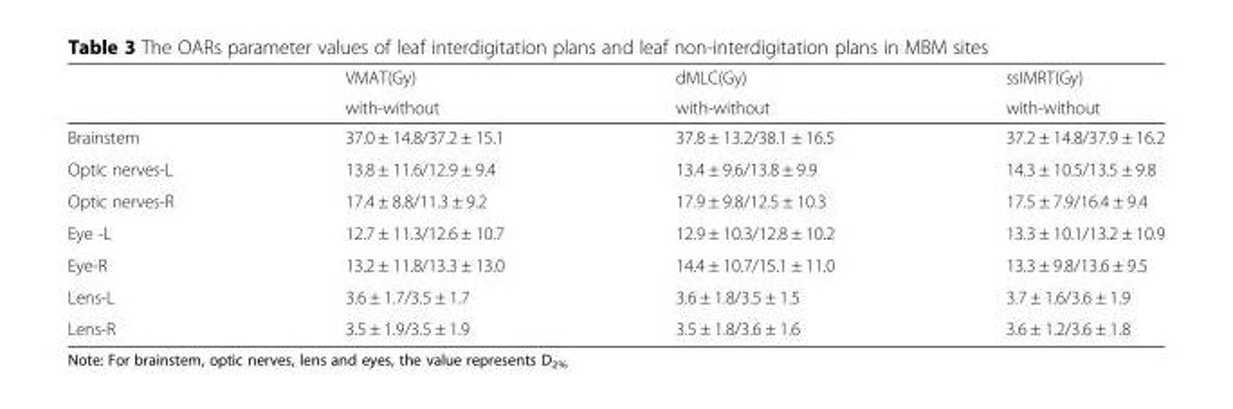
<table><thead><tr><td rowspan="2"></td><td rowspan="2">VMAT(Gy) with-without</td><td rowspan="2">dMLC(Gy) with-without</td><td rowspan="2">ssIMRT(Gy) with-without</td></tr><tr></tr></thead><tbody><tr><td>Brainstem</td><td>37.0 ± 14.8/37.2 ± 15.1</td><td>37.8 ± 13.2/38.1 ± 16.5</td><td>37.2 ± 14.8/37.9 ± 16.2</td></tr><tr><td>Optic nerves-L</td><td>13.8 ± 11.6/12.9 ± 9.4</td><td>13.4 ± 9.6/13.8 ± 9.9</td><td>14.3 ± 10.5/13.5 ± 9.8</td></tr><tr><td>Optic nerves-R</td><td>17.4 ± 8.8/11.3 ± 9.2</td><td>17.9 ± 9.8/12.5 ± 10.3</td><td>17.5 ± 7.9/16.4 ± 9.4</td></tr><tr><td>Eye -L</td><td>12.7 ± 11.3/12.6 ± 10.7</td><td>12.9 ± 10.3/12.8 ± 10.2</td><td>13.3 ± 10.1/13.2 ± 10.9</td></tr><tr><td>Eye-R</td><td>13.2 ± 11.8/13.3 ± 13.0</td><td>14.4 ± 10.7/15.1 ± 11.0</td><td>13.3 ± 9.8/13.6 ± 9.5</td></tr><tr><td>Lens-L</td><td>3.6 ± 1.7/3.5 ± 1.7</td><td>3.6 ± 1.8/3.5 ± 1.5</td><td>3.7 ± 1.6/3.6 ± 1.9</td></tr><tr><td>Lens-R</td><td>3.5 ± 1.9/3.5 ± 1.9</td><td>3.5 ± 1.8/3.6 ± 1.6</td><td>3.6 ± 1.2/3.6 ± 1.8</td></tr></tbody></table>